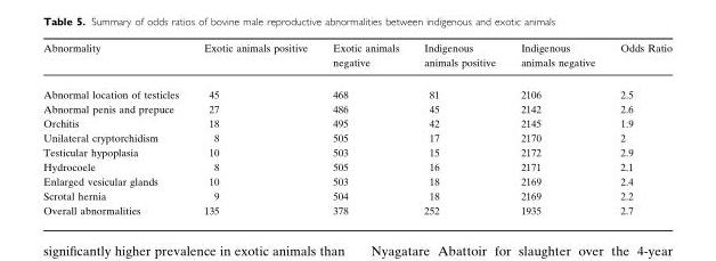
<table><thead><tr><td>Abnormality</td><td>Exotic animals positive</td><td>Exotic animals negative</td><td>Indigenous animals positive</td><td>Indigenous animals negative</td><td>Odds Ratio</td></tr></thead><tbody><tr><td>Abnormal location of testicles</td><td>45</td><td>468</td><td>81</td><td>2106</td><td>2.5</td></tr><tr><td>Abnormal penis and prepuce</td><td>27</td><td>486</td><td>45</td><td>2142</td><td>2.6</td></tr><tr><td>Orchitis</td><td>18</td><td>495</td><td>42</td><td>2145</td><td>1.9</td></tr><tr><td>Unilateral cryptorchidism</td><td>8</td><td>505</td><td>17</td><td>2170</td><td>2</td></tr><tr><td>Testicular hypoplasia</td><td>10</td><td>503</td><td>15</td><td>2172</td><td>2.9</td></tr><tr><td>Hydrocoele</td><td>8</td><td>505</td><td>16</td><td>2171</td><td>2.1</td></tr><tr><td>Enlarged vesicular glands</td><td>10</td><td>503</td><td>18</td><td>2169</td><td>2.4</td></tr><tr><td>Scrotal hernia</td><td>9</td><td>504</td><td>18</td><td>2169</td><td>2.2</td></tr><tr><td>Overall abnormalities</td><td>135</td><td>378</td><td>252</td><td>1935</td><td>2.7</td></tr></tbody></table>